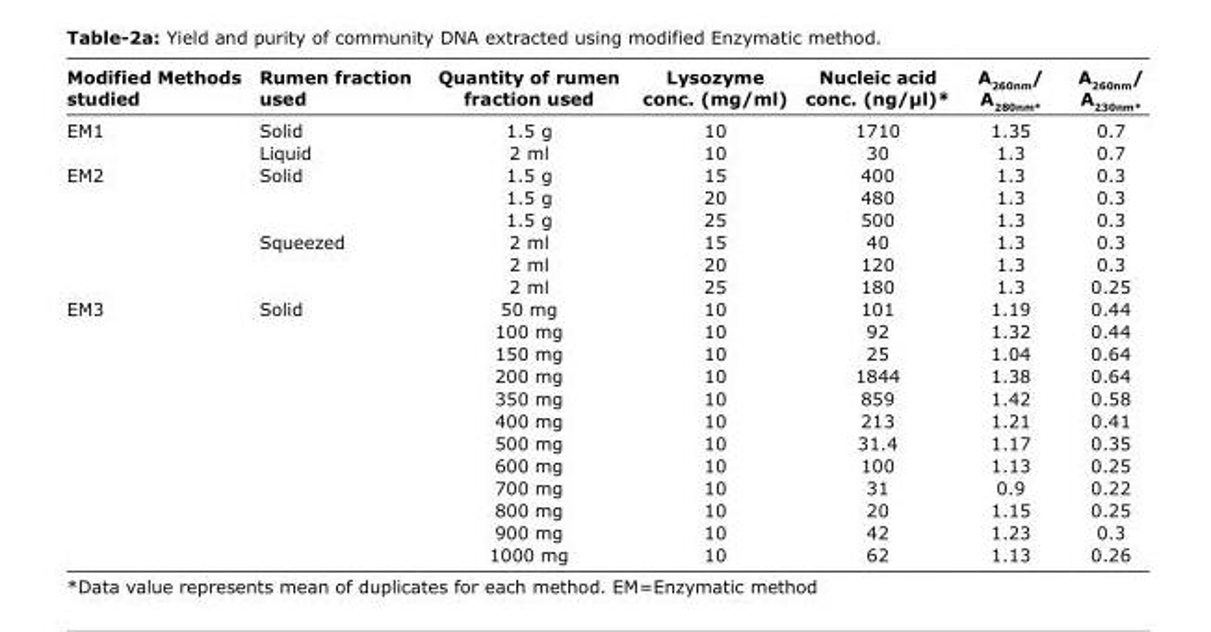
<table><thead><tr><td>Modified Methods studied</td><td>Rumen fraction used</td><td>Quantity of rumen fraction used</td><td>Lysozyme conc. (mg/ml)</td><td>Nucleic acid conc. (ng/µl)*</td><td>A<sub>260nm</sub>/ A<sub>280nm*</sub></td><td>A<sub>260nm</sub>/ A<sub>230nm*</sub></td></tr></thead><tbody><tr><td rowspan="2">EM1</td><td>Solid</td><td>1.5 g</td><td>10</td><td>1710</td><td>1.35</td><td>0.7</td></tr><tr><td>Liquid</td><td>2 ml</td><td>10</td><td>30</td><td>1.3</td><td>0.7</td></tr><tr><td rowspan="6">EM2</td><td>Solid</td><td>1.5 g</td><td>15</td><td>400</td><td>1.3</td><td>0.3</td></tr><tr><td></td><td>1.5 g</td><td>20</td><td>480</td><td>1.3</td><td>0.3</td></tr><tr><td></td><td>1.5 g</td><td>25</td><td>500</td><td>1.3</td><td>0.3</td></tr><tr><td>Squeezed</td><td>2 ml</td><td>15</td><td>40</td><td>1.3</td><td>0.3</td></tr><tr><td></td><td>2 ml</td><td>20</td><td>120</td><td>1.3</td><td>0.3</td></tr><tr><td></td><td>2 ml</td><td>25</td><td>180</td><td>1.3</td><td>0.25</td></tr><tr><td rowspan="12">EM3</td><td>Solid</td><td>50 mg</td><td>10</td><td>101</td><td>1.19</td><td>0.44</td></tr><tr><td></td><td>100 mg</td><td>10</td><td>92</td><td>1.32</td><td>0.44</td></tr><tr><td></td><td>150 mg</td><td>10</td><td>25</td><td>1.04</td><td>0.64</td></tr><tr><td></td><td>200 mg</td><td>10</td><td>1844</td><td>1.38</td><td>0.64</td></tr><tr><td></td><td>350 mg</td><td>10</td><td>859</td><td>1.42</td><td>0.58</td></tr><tr><td></td><td>400 mg</td><td>10</td><td>213</td><td>1.21</td><td>0.41</td></tr><tr><td></td><td>500 mg</td><td>10</td><td>31.4</td><td>1.17</td><td>0.35</td></tr><tr><td></td><td>600 mg</td><td>10</td><td>100</td><td>1.13</td><td>0.25</td></tr><tr><td></td><td>700 mg</td><td>10</td><td>31</td><td>0.9</td><td>0.22</td></tr><tr><td></td><td>800 mg</td><td>10</td><td>20</td><td>1.15</td><td>0.25</td></tr><tr><td></td><td>900 mg</td><td>10</td><td>42</td><td>1.23</td><td>0.3</td></tr><tr><td></td><td>1000 mg</td><td>10</td><td>62</td><td>1.13</td><td>0.26</td></tr></tbody></table>